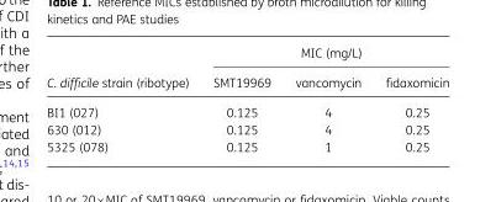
<table><thead><tr><td rowspan="2">C. difficile strain (ribotype)</td><td colspan="3">MIC (mg/L)</td></tr><tr><td>SMT19969</td><td>vancomycin</td><td>fidaxomicin</td></tr></thead><tbody><tr><td>BI1 (027)</td><td>0.125</td><td>4</td><td>0.25</td></tr><tr><td>630 (012)</td><td>0.125</td><td>4</td><td>0.25</td></tr><tr><td>5325 (078)</td><td>0.125</td><td>1</td><td>0.25</td></tr></tbody></table>